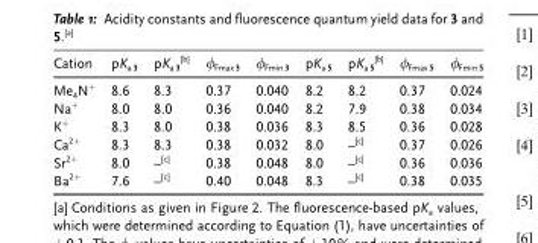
<table><thead><tr><td>Cation</td><td>pK<sub>a 3</sub></td><td>pK<sub>a 3</sub> [b]</td><td>ϕ<sub>Fmax 3</sub></td><td>ϕ<sub>Fmin 3</sub></td><td>pK<sub>a 5</sub></td><td>pK<sub>a 5</sub> [b]</td><td>ϕ<sub>Fmax 5</sub></td><td>ϕ<sub>Fmin 5</sub></td></tr></thead><tbody><tr><td>Me<sub>4</sub>N<sup>+</sup></td><td>8.6</td><td>8.3</td><td>0.37</td><td>0.040</td><td>8.2</td><td>8.2</td><td>0.37</td><td>0.024</td></tr><tr><td>Na<sup>+</sup></td><td>8.0</td><td>8.0</td><td>0.36</td><td>0.040</td><td>8.2</td><td>7.9</td><td>0.38</td><td>0.034</td></tr><tr><td>K<sup>+</sup></td><td>8.3</td><td>8.0</td><td>0.38</td><td>0.036</td><td>8.3</td><td>8.5</td><td>0.36</td><td>0.028</td></tr><tr><td>Ca<sup>2+</sup></td><td>8.3</td><td>8.3</td><td>0.38</td><td>0.032</td><td>8.0</td><td>–[c]</td><td>0.37</td><td>0.026</td></tr><tr><td>Sr<sup>2+</sup></td><td>8.0</td><td>–[c]</td><td>0.38</td><td>0.048</td><td>8.0</td><td>–[c]</td><td>0.36</td><td>0.036</td></tr><tr><td>Ba<sup>2+</sup></td><td>7.6</td><td>–[c]</td><td>0.40</td><td>0.048</td><td>8.3</td><td>–[c]</td><td>0.38</td><td>0.035</td></tr></tbody></table>